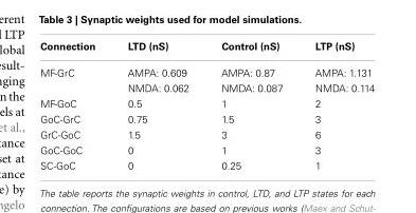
<table><thead><tr><td>Connection</td><td>LTD (nS)</td><td>Control (nS)</td><td>LTP (nS)</td></tr></thead><tbody><tr><td rowspan="2">MF-GrC</td><td>AMPA: 0.609</td><td>AMPA: 0.87</td><td>AMPA: 1.131</td></tr><tr><td>NMDA: 0.062</td><td>NMDA: 0.087</td><td>NMDA: 0.114</td></tr><tr><td>MF-GoC</td><td>0.5</td><td>1</td><td>2</td></tr><tr><td>GoC-GrC</td><td>0.75</td><td>1.5</td><td>3</td></tr><tr><td>GrC-GoC</td><td>1.5</td><td>3</td><td>6</td></tr><tr><td>GoC-GoC</td><td>0</td><td>1</td><td>3</td></tr><tr><td>SC-GoC</td><td>0</td><td>0.25</td><td>1</td></tr></tbody></table>